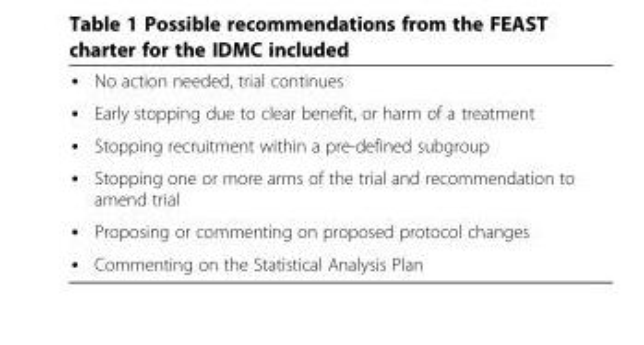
<table><tbody><tr><td>∙</td><td>No action needed, trial continues</td></tr><tr><td>∙</td><td>Early stopping due to clear benefit, or harm of a treatment</td></tr><tr><td>∙</td><td>Stopping recruitment within a pre-defined subgroup</td></tr><tr><td>∙</td><td>Stopping one or more arms of the trial and recommendation to amend trial</td></tr><tr><td>∙</td><td>Proposing or commenting on proposed protocol changes</td></tr><tr><td>∙</td><td>Commenting on the Statistical Analysis Plan</td></tr></tbody></table>